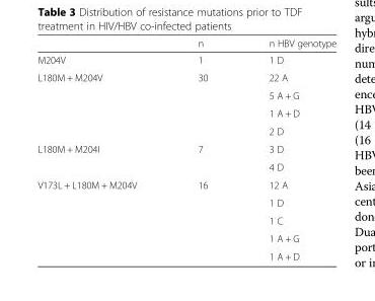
<table><thead><tr><td></td><td>n</td><td>n HBV genotype</td></tr></thead><tbody><tr><td>M204V</td><td>1</td><td>1 D</td></tr><tr><td rowspan="4">L180M + M204V</td><td>30</td><td>22 A</td></tr><tr><td></td><td>5 A + G</td></tr><tr><td></td><td>1 A + D</td></tr><tr><td></td><td>2 D</td></tr><tr><td rowspan="2">L180M + M204I</td><td>7</td><td>3 D</td></tr><tr><td></td><td>4 D</td></tr><tr><td rowspan="5">V173L + L180M + M204V</td><td>16</td><td>12 A</td></tr><tr><td></td><td>1 D</td></tr><tr><td></td><td>1 C</td></tr><tr><td></td><td>1 A + G</td></tr><tr><td></td><td>1 A + D</td></tr></tbody></table>